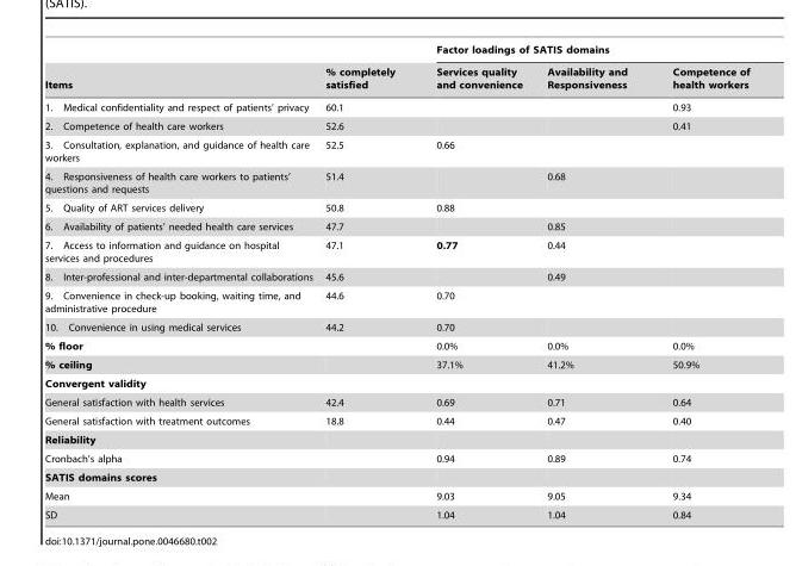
<table><thead><tr><td rowspan="2">Items</td><td rowspan="2">% completely satisfied</td><td colspan="3">Factor loadings of SATIS domains</td></tr><tr><td>Services quality and convenience</td><td>Availability and Responsiveness</td><td>Competence of health workers</td></tr></thead><tbody><tr><td>1. Medical confidentiality and respect of patients’ privacy</td><td>60.1</td><td></td><td></td><td>0.93</td></tr><tr><td>2. Competence of health care workers</td><td>52.6</td><td></td><td></td><td>0.41</td></tr><tr><td>3. Consultation, explanation, and guidance of health care workers</td><td>52.5</td><td>0.66</td><td></td><td></td></tr><tr><td>4. Responsiveness of health care workers to patients’ questions and requests</td><td>51.4</td><td></td><td>0.68</td><td></td></tr><tr><td>5. Quality of ART services delivery</td><td>50.8</td><td>0.88</td><td></td><td></td></tr><tr><td>6. Availability of patients’ needed health care services</td><td>47.7</td><td></td><td>0.85</td><td></td></tr><tr><td>7. Access to information and guidance on hospital services and procedures</td><td>47.1</td><td>0.77</td><td>0.44</td><td></td></tr><tr><td>8. Inter-professional and inter-departmental collaborations</td><td>45.6</td><td></td><td>0.49</td><td></td></tr><tr><td>9. Convenience in check-up booking, waiting time, and administrative procedure</td><td>44.6</td><td>0.70</td><td></td><td></td></tr><tr><td>10. Convenience in using medical services</td><td>44.2</td><td>0.70</td><td></td><td></td></tr><tr><td>% floor</td><td></td><td>0.0%</td><td>0.0%</td><td>0.0%</td></tr><tr><td>% ceiling</td><td></td><td>37.1%</td><td>41.2%</td><td>50.9%</td></tr><tr><td colspan="5">Convergent validity</td></tr><tr><td>General satisfaction with health services</td><td>42.4</td><td>0.69</td><td>0.71</td><td>0.64</td></tr><tr><td>General satisfaction with treatment outcomes</td><td>18.8</td><td>0.44</td><td>0.47</td><td>0.40</td></tr><tr><td colspan="5">Reliability</td></tr><tr><td>Cronbach’s alpha</td><td></td><td>0.94</td><td>0.89</td><td>0.74</td></tr><tr><td colspan="5">SATIS domains scores</td></tr><tr><td>Mean</td><td></td><td>9.03</td><td>9.05</td><td>9.34</td></tr><tr><td>SD</td><td></td><td>1.04</td><td>1.04</td><td>0.84</td></tr></tbody></table>